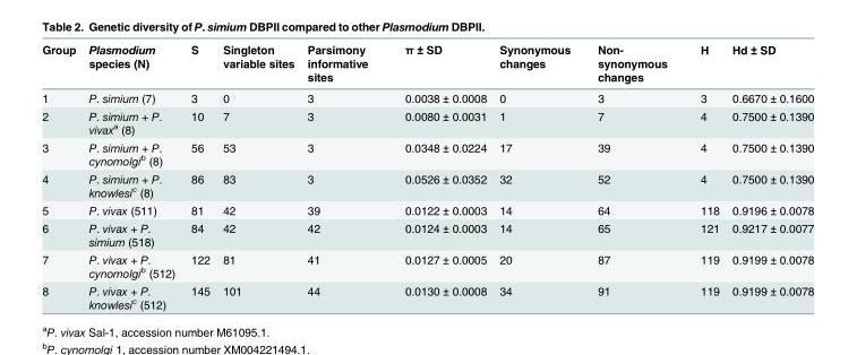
<table><thead><tr><td>Group</td><td>Plasmodium species (N)</td><td>S</td><td>Singleton variable sites</td><td>Parsimony informative sites</td><td>π ± SD</td><td>Synonymous changes</td><td>Non- synonymous changes</td><td>H</td><td>Hd ± SD</td></tr></thead><tbody><tr><td>1</td><td>P. simium (7)</td><td>3</td><td>0</td><td>3</td><td>0.0038 ± 0.0008</td><td>0</td><td>3</td><td>3</td><td>0.6670 ± 0.1600</td></tr><tr><td>2</td><td>P. simium + P. vivax<sup>a</sup> (8)</td><td>10</td><td>7</td><td>3</td><td>0.0080 ± 0.0031</td><td>1</td><td>7</td><td>4</td><td>0.7500 ± 0.1390</td></tr><tr><td>3</td><td>P. simium + P. cynomolgi<sup>b</sup> (8)</td><td>56</td><td>53</td><td>3</td><td>0.0348 ± 0.0224</td><td>17</td><td>39</td><td>4</td><td>0.7500 ± 0.1390</td></tr><tr><td>4</td><td>P. simium + P. knowlesi<sup>c</sup> (8)</td><td>86</td><td>83</td><td>3</td><td>0.0526 ± 0.0352</td><td>32</td><td>52</td><td>4</td><td>0.7500 ± 0.1390</td></tr><tr><td>5</td><td>P. vivax (511)</td><td>81</td><td>42</td><td>39</td><td>0.0122 ± 0.0003</td><td>14</td><td>64</td><td>118</td><td>0.9196 ± 0.0078</td></tr><tr><td>6</td><td>P. vivax + P. simium (518)</td><td>84</td><td>42</td><td>42</td><td>0.0124 ± 0.0003</td><td>14</td><td>65</td><td>121</td><td>0.9217 ± 0.0077</td></tr><tr><td>7</td><td>P. vivax + P. cynomolgi<sup>b</sup> (512)</td><td>122</td><td>81</td><td>41</td><td>0.0127 ± 0.0005</td><td>20</td><td>87</td><td>119</td><td>0.9199 ± 0.0078</td></tr><tr><td>8</td><td>P. vivax + P. knowlesi<sup>c</sup> (512)</td><td>145</td><td>101</td><td>44</td><td>0.0130 ± 0.0008</td><td>34</td><td>91</td><td>119</td><td>0.9199 ± 0.0078</td></tr></tbody></table>